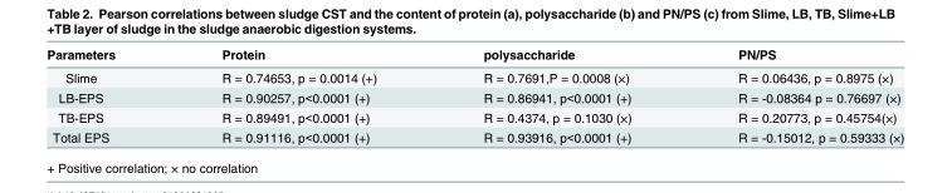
<table><thead><tr><td>Parameters</td><td>Protein</td><td>polysaccharide</td><td>PN/PS</td></tr></thead><tbody><tr><td>Slime</td><td>R = 0.74653, p = 0.0014 (+)</td><td>R = 0.7691,P = 0.0008 (×)</td><td>R = 0.06436, p = 0.8975 (×)</td></tr><tr><td>LB-EPS</td><td>R = 0.90257, p&lt;0.0001 (+)</td><td>R = 0.86941, p&lt;0.0001 (+)</td><td>R = -0.08364 p = 0.76697 (×)</td></tr><tr><td>TB-EPS</td><td>R = 0.89491, p&lt;0.0001 (+)</td><td>R = 0.4374, p = 0.1030 (×)</td><td>R = 0.20773, p = 0.45754(×)</td></tr><tr><td>Total EPS</td><td>R = 0.91116, p&lt;0.0001 (+)</td><td>R = 0.93916, p&lt;0.0001 (+)</td><td>R = -0.15012, p = 0.59333 (×)</td></tr></tbody></table>